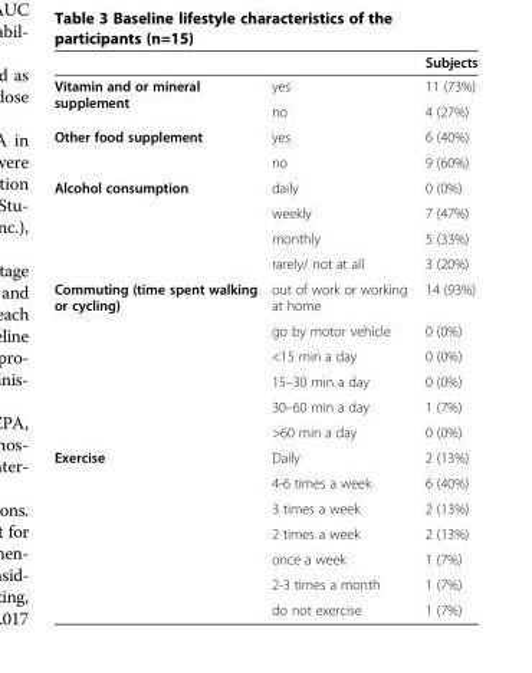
<table><thead><tr><td></td><td></td><td>Subjects</td></tr></thead><tbody><tr><td rowspan="2">Vitamin and or mineral supplement</td><td>yes</td><td>11 (73%)</td></tr><tr><td>no</td><td>4 (27%)</td></tr><tr><td rowspan="2">Other food supplement</td><td>yes</td><td>6 (40%)</td></tr><tr><td>no</td><td>9 (60%)</td></tr><tr><td rowspan="4">Alcohol consumption</td><td>daily</td><td>0 (0%)</td></tr><tr><td>weekly</td><td>7 (47%)</td></tr><tr><td>monthly</td><td>5 (33%)</td></tr><tr><td>rarely/ not at all</td><td>3 (20%)</td></tr><tr><td rowspan="6">Commuting (time spent walking or cycling)</td><td>out of work or working at home</td><td>14 (93%)</td></tr><tr><td>go by motor vehicle</td><td>0 (0%)</td></tr><tr><td>&lt;15 min a day</td><td>0 (0%)</td></tr><tr><td>15–30 min a day</td><td>0 (0%)</td></tr><tr><td>30–60 min a day</td><td>1 (7%)</td></tr><tr><td>&gt;60 min a day</td><td>0 (0%)</td></tr><tr><td rowspan="7">Exercise</td><td>Daily</td><td>2 (13%)</td></tr><tr><td>4-6 times a week</td><td>6 (40%)</td></tr><tr><td>3 times a week</td><td>2 (13%)</td></tr><tr><td>2 times a week</td><td>2 (13%)</td></tr><tr><td>once a week</td><td>1 (7%)</td></tr><tr><td>2-3 times a month</td><td>1 (7%)</td></tr><tr><td>do not exercise</td><td>1 (7%)</td></tr></tbody></table>